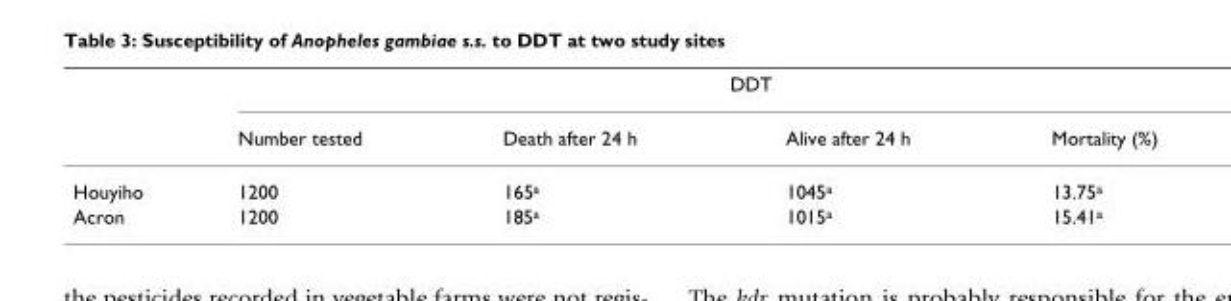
<table><thead><tr><td rowspan="2"></td><td colspan="4">DDT</td></tr><tr><td>Number tested</td><td>Death after 24 h</td><td>Alive after 24 h</td><td>Mortality (%)</td></tr></thead><tbody><tr><td>Houyiho</td><td>1200</td><td>165<sup>a</sup></td><td>1045<sup>a</sup></td><td>13.75<sup>a</sup></td></tr><tr><td>Acron</td><td>1200</td><td>185<sup>a</sup></td><td>1015<sup>a</sup></td><td>15.41<sup>a</sup></td></tr></tbody></table>